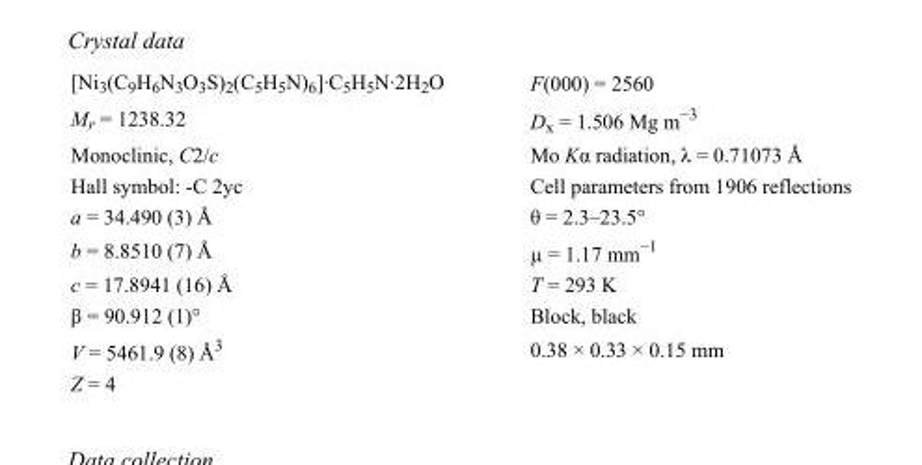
<table><tbody><tr><td>[Ni<sub>3</sub>(C<sub>9</sub>H<sub>6</sub>N<sub>3</sub>O<sub>3</sub>S)<sub>2</sub>(C<sub>5</sub>H<sub>5</sub>N)<sub>6</sub>]·C<sub>5</sub>H<sub>5</sub>N·2H<sub>2</sub>O</td><td>F(000) = 2560</td></tr><tr><td>M<sub>r</sub> = 1238.32</td><td>D<sub>x</sub> = 1.506 Mg m<sup>−3</sup></td></tr><tr><td>Monoclinic, C2/c</td><td>Mo Kα radiation, λ = 0.71073 Å</td></tr><tr><td>Hall symbol: -C 2yc</td><td>Cell parameters from 1906 reflections</td></tr><tr><td>a = 34.490 (3) Å</td><td>θ = 2.3–23.5°</td></tr><tr><td>b = 8.8510 (7) Å</td><td>µ = 1.17 mm<sup>−1</sup></td></tr><tr><td>c = 17.8941 (16) Å</td><td>T = 293 K</td></tr><tr><td>β = 90.912 (1)°</td><td>Block, black</td></tr><tr><td>V = 5461.9 (8) Å<sup>3</sup></td><td>0.38 × 0.33 × 0.15 mm</td></tr><tr><td>Z = 4</td><td></td></tr></tbody></table>